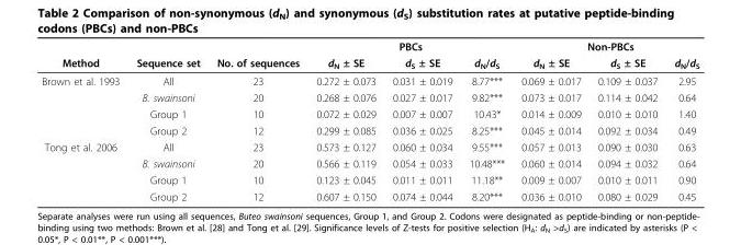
<table><thead><tr><td rowspan="2">Method</td><td rowspan="2">Sequence set</td><td rowspan="2">No. of sequences</td><td colspan="3">PBCs</td><td colspan="3">Non-PBCs</td></tr><tr><td>d<sub>N</sub> ± SE</td><td>d<sub>S</sub> ± SE</td><td>d<sub>N</sub>/d<sub>S</sub></td><td>d<sub>N</sub> ± SE</td><td>d<sub>S</sub> ± SE</td><td>d<sub>N</sub>/d<sub>S</sub></td></tr></thead><tbody><tr><td rowspan="4">Brown et al. 1993</td><td>All</td><td>23</td><td>0.272 ± 0.073</td><td>0.031 ± 0.019</td><td>8.77***</td><td>0.069 ± 0.017</td><td>0.109 ± 0.037</td><td>2.95</td></tr><tr><td>B. swainsoni</td><td>20</td><td>0.268 ± 0.076</td><td>0.027 ± 0.017</td><td>9.82***</td><td>0.073 ± 0.017</td><td>0.114 ± 0.042</td><td>0.64</td></tr><tr><td>Group 1</td><td>10</td><td>0.072 ± 0.029</td><td>0.007 ± 0.007</td><td>10.43*</td><td>0.014 ± 0.009</td><td>0.010 ± 0.010</td><td>1.40</td></tr><tr><td>Group 2</td><td>12</td><td>0.299 ± 0.085</td><td>0.036 ± 0.025</td><td>8.25***</td><td>0.045 ± 0.014</td><td>0.092 ± 0.034</td><td>0.49</td></tr><tr><td rowspan="4">Tong et al. 2006</td><td>All</td><td>23</td><td>0.573 ± 0.127</td><td>0.060 ± 0.034</td><td>9.55***</td><td>0.057 ± 0.013</td><td>0.090 ± 0.030</td><td>0.63</td></tr><tr><td>B. swainsoni</td><td>20</td><td>0.566 ± 0.119</td><td>0.054 ± 0.033</td><td>10.48***</td><td>0.060 ± 0.014</td><td>0.094 ± 0.032</td><td>0.64</td></tr><tr><td>Group 1</td><td>10</td><td>0.123 ± 0.045</td><td>0.011 ± 0.011</td><td>11.18**</td><td>0.009 ± 0.007</td><td>0.010 ± 0.011</td><td>0.90</td></tr><tr><td>Group 2</td><td>12</td><td>0.607 ± 0.150</td><td>0.074 ± 0.044</td><td>8.20***</td><td>0.036 ± 0.010</td><td>0.080 ± 0.029</td><td>0.45</td></tr></tbody></table>